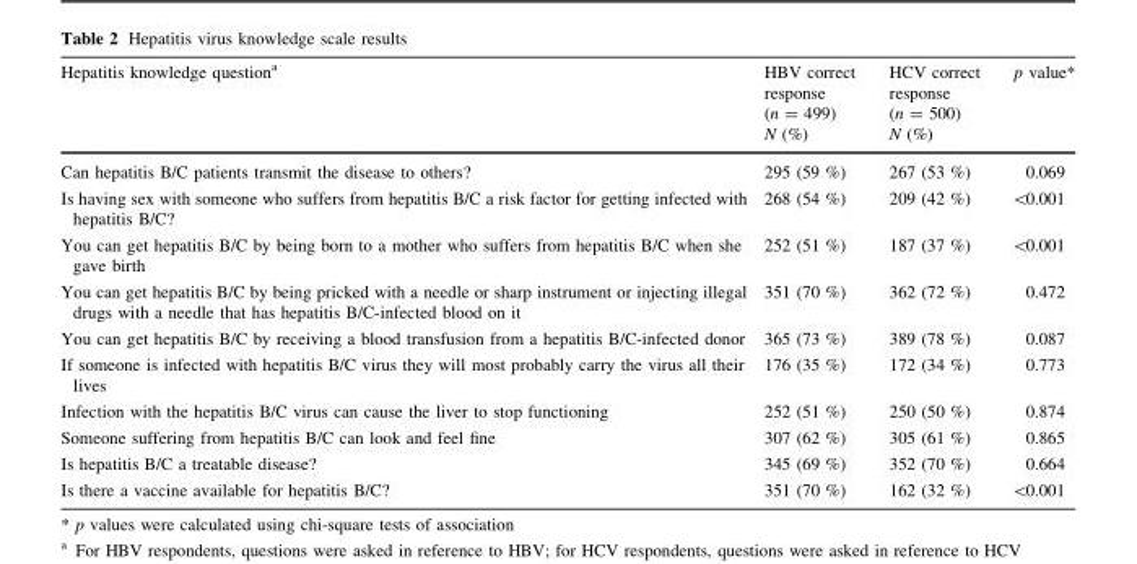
<table><thead><tr><td>Hepatitis knowledge question<sup>a</sup></td><td>HBV correct response (n = 499) N (%)</td><td>HCV correct response (n = 500) N (%)</td><td>p value*</td></tr></thead><tbody><tr><td>Can hepatitis B/C patients transmit the disease to others?</td><td>295 (59 %)</td><td>267 (53 %)</td><td>0.069</td></tr><tr><td>Is having sex with someone who suffers from hepatitis B/C a risk factor for getting infected with hepatitis B/C?</td><td>268 (54 %)</td><td>209 (42 %)</td><td>&lt;0.001</td></tr><tr><td>You can get hepatitis B/C by being born to a mother who suffers from hepatitis B/C when she gave birth</td><td>252 (51 %)</td><td>187 (37 %)</td><td>&lt;0.001</td></tr><tr><td>You can get hepatitis B/C by being pricked with a needle or sharp instrument or injecting illegal drugs with a needle that has hepatitis B/C-infected blood on it</td><td>351 (70 %)</td><td>362 (72 %)</td><td>0.472</td></tr><tr><td>You can get hepatitis B/C by receiving a blood transfusion from a hepatitis B/C-infected donor</td><td>365 (73 %)</td><td>389 (78 %)</td><td>0.087</td></tr><tr><td>If someone is infected with hepatitis B/C virus they will most probably carry the virus all their lives</td><td>176 (35 %)</td><td>172 (34 %)</td><td>0.773</td></tr><tr><td>Infection with the hepatitis B/C virus can cause the liver to stop functioning</td><td>252 (51 %)</td><td>250 (50 %)</td><td>0.874</td></tr><tr><td>Someone suffering from hepatitis B/C can look and feel fine</td><td>307 (62 %)</td><td>305 (61 %)</td><td>0.865</td></tr><tr><td>Is hepatitis B/C a treatable disease?</td><td>345 (69 %)</td><td>352 (70 %)</td><td>0.664</td></tr><tr><td>Is there a vaccine available for hepatitis B/C?</td><td>351 (70 %)</td><td>162 (32 %)</td><td>&lt;0.001</td></tr></tbody></table>